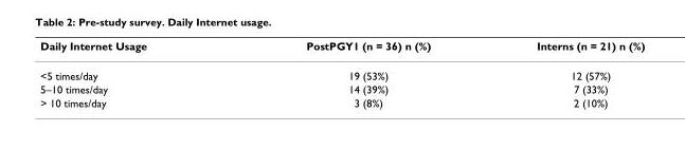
<table><thead><tr><td>Daily Internet Usage</td><td>PostPGY1 (n = 36) n (%)</td><td>Interns (n = 21) n (%)</td></tr></thead><tbody><tr><td>&lt;5 times/day</td><td>19 (53%)</td><td>12 (57%)</td></tr><tr><td>5–10 times/day</td><td>14 (39%)</td><td>7 (33%)</td></tr><tr><td>&gt; 10 times/day</td><td>3 (8%)</td><td>2 (10%)</td></tr></tbody></table>